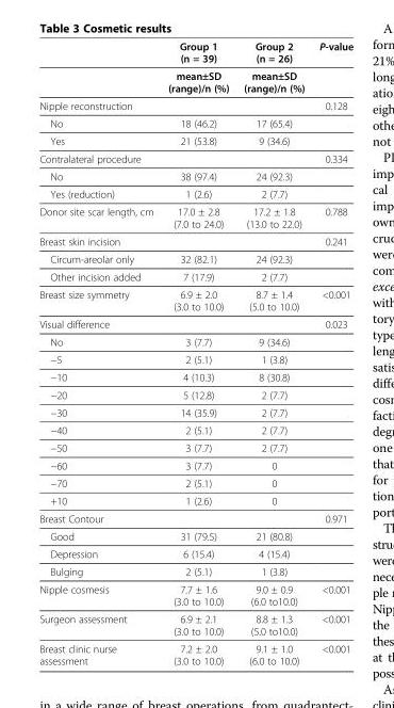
<table><thead><tr><td></td><td>Group 1 (n = 39)</td><td>Group 2 (n = 26)</td><td>P-value</td></tr></thead><tbody><tr><td></td><td>mean±SD (range)/n (%)</td><td>mean±SD (range)/n (%)</td><td></td></tr><tr><td>Nipple reconstruction</td><td></td><td></td><td>0.128</td></tr><tr><td>No</td><td>18 (46.2)</td><td>17 (65.4)</td><td></td></tr><tr><td>Yes</td><td>21 (53.8)</td><td>9 (34.6)</td><td></td></tr><tr><td>Contralateral procedure</td><td></td><td></td><td>0.334</td></tr><tr><td>No</td><td>38 (97.4)</td><td>24 (92.3)</td><td></td></tr><tr><td>Yes (reduction)</td><td>1 (2.6)</td><td>2 (7.7)</td><td></td></tr><tr><td>Donor site scar length, cm</td><td>17.0 ± 2.8 (7.0 to 24.0)</td><td>17.2 ± 1.8 (13.0 to 22.0)</td><td>0.788</td></tr><tr><td>Breast skin incision</td><td></td><td></td><td>0.241</td></tr><tr><td>Circum-areolar only</td><td>32 (82.1)</td><td>24 (92.3)</td><td></td></tr><tr><td>Other incision added</td><td>7 (17.9)</td><td>2 (7.7)</td><td></td></tr><tr><td>Breast size symmetry</td><td>6.9 ± 2.0 (3.0 to 10.0)</td><td>8.7 ± 1.4 (5.0 to 10.0)</td><td>&lt;0.001</td></tr><tr><td>Visual difference</td><td></td><td></td><td>0.023</td></tr><tr><td>No</td><td>3 (7.7)</td><td>9 (34.6)</td><td></td></tr><tr><td>−5</td><td>2 (5.1)</td><td>1 (3.8)</td><td></td></tr><tr><td>−10</td><td>4 (10.3)</td><td>8 (30.8)</td><td></td></tr><tr><td>−20</td><td>5 (12.8)</td><td>2 (7.7)</td><td></td></tr><tr><td>−30</td><td>14 (35.9)</td><td>2 (7.7)</td><td></td></tr><tr><td>−40</td><td>2 (5.1)</td><td>2 (7.7)</td><td></td></tr><tr><td>−50</td><td>3 (7.7)</td><td>2 (7.7)</td><td></td></tr><tr><td>−60</td><td>3 (7.7)</td><td>0</td><td></td></tr><tr><td>−70</td><td>2 (5.1)</td><td>0</td><td></td></tr><tr><td>+10</td><td>1 (2.6)</td><td>0</td><td></td></tr><tr><td>Breast Contour</td><td></td><td></td><td>0.971</td></tr><tr><td>Good</td><td>31 (79.5)</td><td>21 (80.8)</td><td></td></tr><tr><td>Depression</td><td>6 (15.4)</td><td>4 (15.4)</td><td></td></tr><tr><td>Bulging</td><td>2 (5.1)</td><td>1 (3.8)</td><td></td></tr><tr><td>Nipple cosmesis</td><td>7.7 ± 1.6 (3.0 to 10.0)</td><td>9.0 ± 0.9 (6.0 to10.0)</td><td>&lt;0.001</td></tr><tr><td>Surgeon assessment</td><td>6.9 ± 2.1 (3.0 to 10.0)</td><td>8.8 ± 1.3 (5.0 to10.0)</td><td>&lt;0.001</td></tr><tr><td>Breast clinic nurse assessment</td><td>7.2 ± 2.0 (3.0 to 10.0)</td><td>9.1 ± 1.0 (6.0 to 10.0)</td><td>&lt;0.001</td></tr></tbody></table>